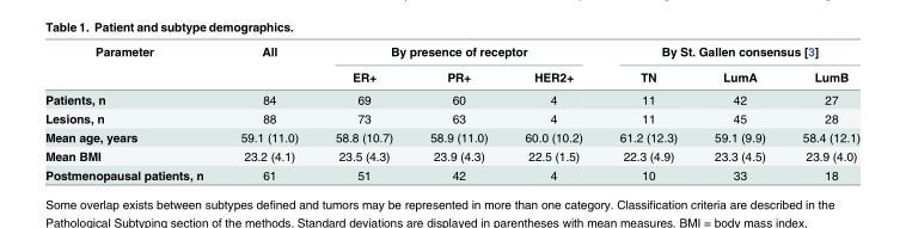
<table><thead><tr><td rowspan="2">Parameter</td><td rowspan="2">All</td><td colspan="3">By presence of receptor</td><td colspan="3">By St. Gallen consensus [3]</td></tr><tr><td>ER+</td><td>PR+</td><td>HER2+</td><td>TN</td><td>LumA</td><td>LumB</td></tr></thead><tbody><tr><td>Patients, n</td><td>84</td><td>69</td><td>60</td><td>4</td><td>11</td><td>42</td><td>27</td></tr><tr><td>Lesions, n</td><td>88</td><td>73</td><td>63</td><td>4</td><td>11</td><td>45</td><td>28</td></tr><tr><td>Mean age, years</td><td>59.1 (11.0)</td><td>58.8 (10.7)</td><td>58.9 (11.0)</td><td>60.0 (10.2)</td><td>61.2 (12.3)</td><td>59.1 (9.9)</td><td>58.4 (12.1)</td></tr><tr><td>Mean BMI</td><td>23.2 (4.1)</td><td>23.5 (4.3)</td><td>23.9 (4.3)</td><td>22.5 (1.5)</td><td>22.3 (4.9)</td><td>23.3 (4.5)</td><td>23.9 (4.0)</td></tr><tr><td>Postmenopausal patients, n</td><td>61</td><td>51</td><td>42</td><td>4</td><td>10</td><td>33</td><td>18</td></tr></tbody></table>